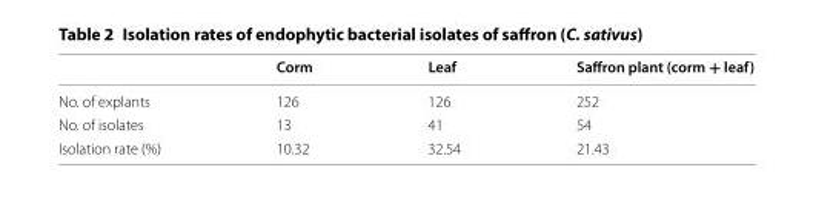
<table><thead><tr><td></td><td>Corm</td><td>Leaf</td><td>Saffron plant (corm + leaf)</td></tr></thead><tbody><tr><td>No. of explants</td><td>126</td><td>126</td><td>252</td></tr><tr><td>No. of isolates</td><td>13</td><td>41</td><td>54</td></tr><tr><td>Isolation rate (%)</td><td>10.32</td><td>32.54</td><td>21.43</td></tr></tbody></table>